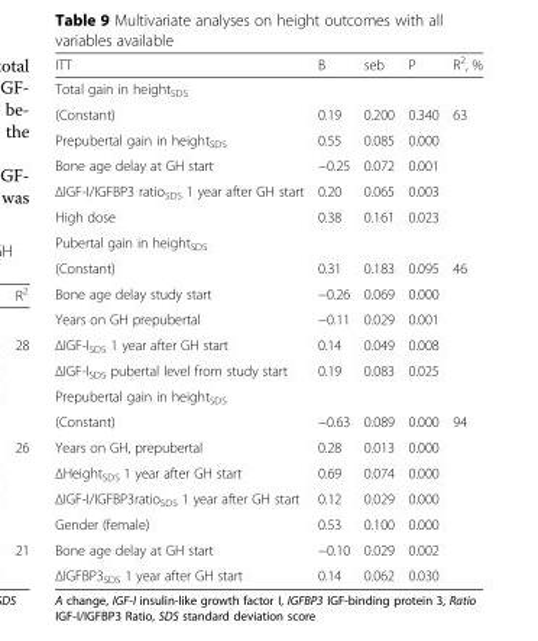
<table><thead><tr><td>ITT</td><td>B</td><td>seb</td><td>P</td><td>R<sup>2</sup>, %</td></tr></thead><tbody><tr><td colspan="5">Total gain in height<sub>SDS</sub></td></tr><tr><td>(Constant)</td><td>0.19</td><td>0.200</td><td>0.340</td><td>63</td></tr><tr><td>Prepubertal gain in height<sub>SDS</sub></td><td>0.55</td><td>0.085</td><td>0.000</td><td></td></tr><tr><td>Bone age delay at GH start</td><td>−0.25</td><td>0.072</td><td>0.001</td><td></td></tr><tr><td>ΔIGF-I/IGFBP3 ratioSDS 1 year after GH start</td><td>0.20</td><td>0.065</td><td>0.003</td><td></td></tr><tr><td>High dose</td><td>0.38</td><td>0.161</td><td>0.023</td><td></td></tr><tr><td colspan="5">Pubertal gain in height<sub>SDS</sub></td></tr><tr><td>(Constant)</td><td>0.31</td><td>0.183</td><td>0.095</td><td>46</td></tr><tr><td>Bone age delay study start</td><td>−0.26</td><td>0.069</td><td>0.000</td><td></td></tr><tr><td>Years on GH prepubertal</td><td>−0.11</td><td>0.029</td><td>0.001</td><td></td></tr><tr><td>ΔIGF-ISDS 1 year after GH start</td><td>0.14</td><td>0.049</td><td>0.008</td><td></td></tr><tr><td>ΔIGF-ISDS pubertal level from study start</td><td>0.19</td><td>0.083</td><td>0.025</td><td></td></tr><tr><td colspan="5">Prepubertal gain in height<sub>SDS</sub></td></tr><tr><td>(Constant)</td><td>−0.63</td><td>0.089</td><td>0.000</td><td>94</td></tr><tr><td>Years on GH, prepubertal</td><td>0.28</td><td>0.013</td><td>0.000</td><td></td></tr><tr><td>ΔHeightSDS 1 year after GH start</td><td>0.69</td><td>0.074</td><td>0.000</td><td></td></tr><tr><td>ΔIGF-I/IGFBP3ratioSDS 1 year after GH start</td><td>0.12</td><td>0.029</td><td>0.000</td><td></td></tr><tr><td>Gender (female)</td><td>0.53</td><td>0.100</td><td>0.000</td><td></td></tr><tr><td>Bone age delay at GH start</td><td>−0.10</td><td>0.029</td><td>0.002</td><td></td></tr><tr><td>ΔIGFBP3SDS 1 year after GH start</td><td>0.14</td><td>0.062</td><td>0.030</td><td></td></tr></tbody></table>